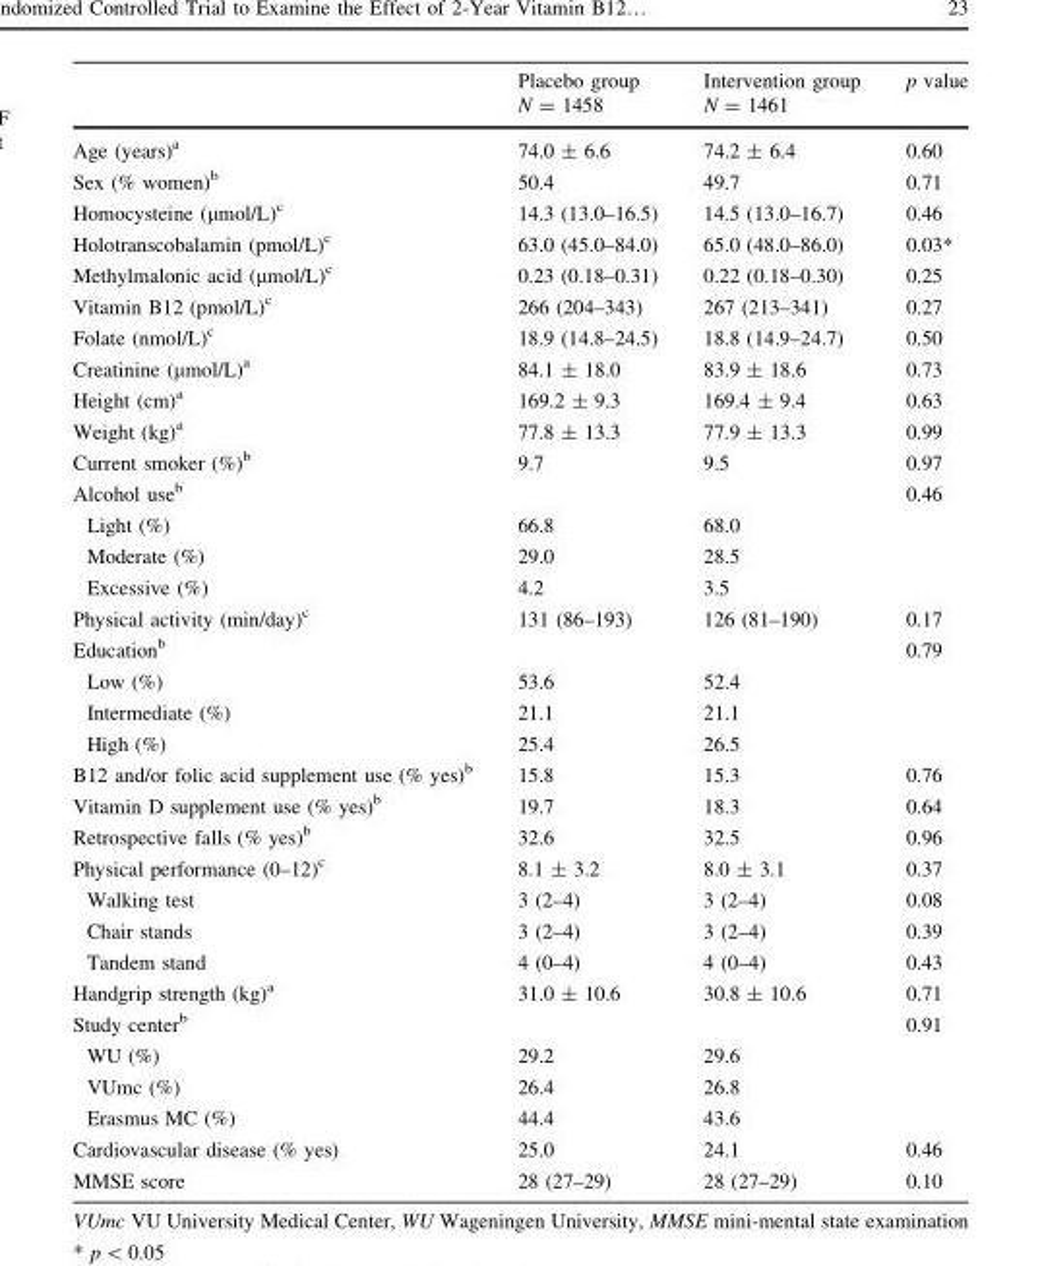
<table><thead><tr><td></td><td>Placebo group N = 1458</td><td>Intervention group N = 1461</td><td>p value</td></tr></thead><tbody><tr><td>Age (years)<sup>a</sup></td><td>74.0 ± 6.6</td><td>74.2 ± 6.4</td><td>0.60</td></tr><tr><td>Sex (% women)<sup>b</sup></td><td>50.4</td><td>49.7</td><td>0.71</td></tr><tr><td>Homocysteine (µmol/L)<sup>c</sup></td><td>14.3 (13.0–16.5)</td><td>14.5 (13.0–16.7)</td><td>0.46</td></tr><tr><td>Holotranscobalamin (pmol/L)<sup>c</sup></td><td>63.0 (45.0–84.0)</td><td>65.0 (48.0–86.0)</td><td>0.03*</td></tr><tr><td>Methylmalonic acid (µmol/L)<sup>c</sup></td><td>0.23 (0.18–0.31)</td><td>0.22 (0.18–0.30)</td><td>0.25</td></tr><tr><td>Vitamin B12 (pmol/L)<sup>c</sup></td><td>266 (204–343)</td><td>267 (213–341)</td><td>0.27</td></tr><tr><td>Folate (nmol/L)<sup>c</sup></td><td>18.9 (14.8–24.5)</td><td>18.8 (14.9–24.7)</td><td>0.50</td></tr><tr><td>Creatinine (µmol/L)<sup>a</sup></td><td>84.1 ± 18.0</td><td>83.9 ± 18.6</td><td>0.73</td></tr><tr><td>Height (cm)<sup>a</sup></td><td>169.2 ± 9.3</td><td>169.4 ± 9.4</td><td>0.63</td></tr><tr><td>Weight (kg)<sup>a</sup></td><td>77.8 ± 13.3</td><td>77.9 ± 13.3</td><td>0.99</td></tr><tr><td>Current smoker (%)<sup>b</sup></td><td>9.7</td><td>9.5</td><td>0.97</td></tr><tr><td>Alcohol use<sup>b</sup></td><td></td><td></td><td>0.46</td></tr><tr><td>Light (%)</td><td>66.8</td><td>68.0</td><td></td></tr><tr><td>Moderate (%)</td><td>29.0</td><td>28.5</td><td></td></tr><tr><td>Excessive (%)</td><td>4.2</td><td>3.5</td><td></td></tr><tr><td>Physical activity (min/day)<sup>c</sup></td><td>131 (86–193)</td><td>126 (81–190)</td><td>0.17</td></tr><tr><td>Education<sup>b</sup></td><td></td><td></td><td>0.79</td></tr><tr><td>Low (%)</td><td>53.6</td><td>52.4</td><td></td></tr><tr><td>Intermediate (%)</td><td>21.1</td><td>21.1</td><td></td></tr><tr><td>High (%)</td><td>25.4</td><td>26.5</td><td></td></tr><tr><td>B12 and/or folic acid supplement use (% yes)<sup>b</sup></td><td>15.8</td><td>15.3</td><td>0.76</td></tr><tr><td>Vitamin D supplement use (% yes)<sup>b</sup></td><td>19.7</td><td>18.3</td><td>0.64</td></tr><tr><td>Retrospective falls (% yes)<sup>b</sup></td><td>32.6</td><td>32.5</td><td>0.96</td></tr><tr><td>Physical performance (0–12)<sup>c</sup></td><td>8.1 ± 3.2</td><td>8.0 ± 3.1</td><td>0.37</td></tr><tr><td>Walking test</td><td>3 (2–4)</td><td>3 (2–4)</td><td>0.08</td></tr><tr><td>Chair stands</td><td>3 (2–4)</td><td>3 (2–4)</td><td>0.39</td></tr><tr><td>Tandem stand</td><td>4 (0–4)</td><td>4 (0–4)</td><td>0.43</td></tr><tr><td>Handgrip strength (kg)<sup>a</sup></td><td>31.0 ± 10.6</td><td>30.8 ± 10.6</td><td>0.71</td></tr><tr><td>Study center<sup>b</sup></td><td></td><td></td><td>0.91</td></tr><tr><td>WU (%)</td><td>29.2</td><td>29.6</td><td></td></tr><tr><td>VUmc (%)</td><td>26.4</td><td>26.8</td><td></td></tr><tr><td>Erasmus MC (%)</td><td>44.4</td><td>43.6</td><td></td></tr><tr><td>Cardiovascular disease (% yes)</td><td>25.0</td><td>24.1</td><td>0.46</td></tr><tr><td>MMSE score</td><td>28 (27–29)</td><td>28 (27–29)</td><td>0.10</td></tr></tbody></table>